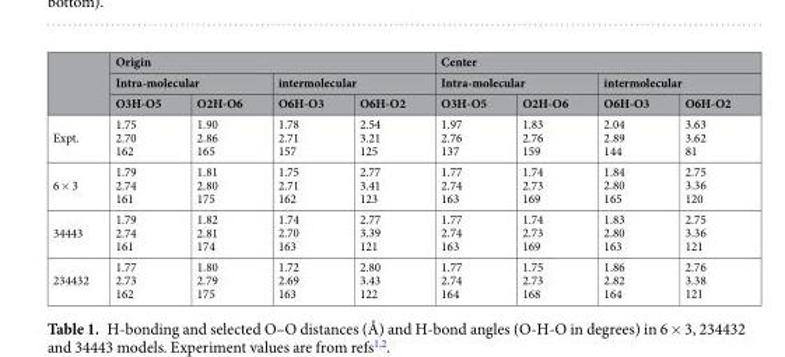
<table><thead><tr><td rowspan="3"></td><td colspan="4">Origin</td><td colspan="4">Center</td></tr><tr><td colspan="2">Intra-molecular</td><td colspan="2">intermolecular</td><td colspan="2">Intra-molecular</td><td colspan="2">intermolecular</td></tr><tr><td>O3H-O5</td><td>O2H-O6</td><td>O6H-O3</td><td>O6H-O2</td><td>O3H-O5</td><td>O2H-O6</td><td>O6H-O3</td><td>O6H-O2</td></tr></thead><tbody><tr><td>Expt.</td><td>1.75 2.70 162</td><td>1.90 2.86 165</td><td>1.78 2.71 157</td><td>2.54 3.21 125</td><td>1.97 2.76 137</td><td>1.83 2.76 159</td><td>2.04 2.89 144</td><td>3.63 3.62 81</td></tr><tr><td>6 × 3</td><td>1.79 2.74 161</td><td>1.81 2.80 175</td><td>1.75 2.71 162</td><td>2.77 3.41 123</td><td>1.77 2.74 163</td><td>1.74 2.73 169</td><td>1.84 2.80 165</td><td>2.75 3.36 120</td></tr><tr><td>34443</td><td>1.79 2.74 161</td><td>1.82 2.81 174</td><td>1.74 2.70 163</td><td>2.77 3.39 121</td><td>1.77 2.74 163</td><td>1.74 2.73 169</td><td>1.83 2.80 163</td><td>2.75 3.36 121</td></tr><tr><td>234432</td><td>1.77 2.73 162</td><td>1.80 2.79 175</td><td>1.72 2.69 163</td><td>2.80 3.43 122</td><td>1.77 2.74 164</td><td>1.75 2.73 168</td><td>1.86 2.82 164</td><td>2.76 3.38 121</td></tr></tbody></table>